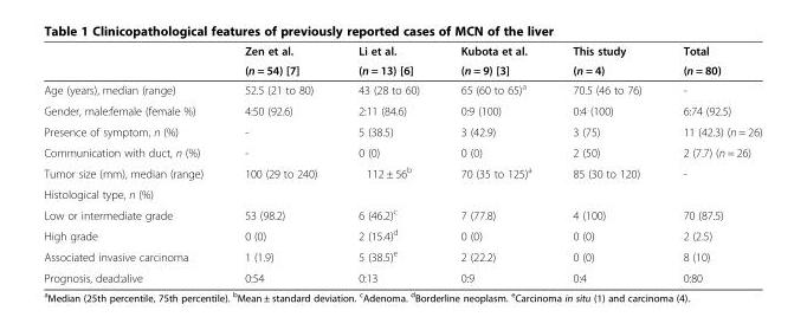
<table><thead><tr><td rowspan="2"></td><td rowspan="2">Zen et al. (n = 54) [7]</td><td rowspan="2">Li et al. (n = 13) [6]</td><td rowspan="2">Kubota et al. (n = 9) [3]</td><td rowspan="2">This study (n = 4)</td><td rowspan="2">Total (n = 80)</td></tr><tr></tr></thead><tbody><tr><td>Age (years), median (range)</td><td>52.5 (21 to 80)</td><td>43 (28 to 60)</td><td>65 (60 to 65)<sup>a</sup></td><td>70.5 (46 to 76)</td><td>-</td></tr><tr><td>Gender, male:female (female %)</td><td>4:50 (92.6)</td><td>2:11 (84.6)</td><td>0:9 (100)</td><td>0:4 (100)</td><td>6:74 (92.5)</td></tr><tr><td>Presence of symptom, n (%)</td><td>-</td><td>5 (38.5)</td><td>3 (42.9)</td><td>3 (75)</td><td>11 (42.3) (n = 26)</td></tr><tr><td>Communication with duct, n (%)</td><td>-</td><td>0 (0)</td><td>0 (0)</td><td>2 (50)</td><td>2 (7.7) (n = 26)</td></tr><tr><td>Tumor size (mm), median (range)</td><td>100 (29 to 240)</td><td>112 ± 56<sup>b</sup></td><td>70 (35 to 125)<sup>a</sup></td><td>85 (30 to 120)</td><td>-</td></tr><tr><td colspan="6">Histological type, n (%)</td></tr><tr><td>Low or intermediate grade</td><td>53 (98.2)</td><td>6 (46.2)<sup>c</sup></td><td>7 (77.8)</td><td>4 (100)</td><td>70 (87.5)</td></tr><tr><td>High grade</td><td>0 (0)</td><td>2 (15.4)<sup>d</sup></td><td>0 (0)</td><td>0 (0)</td><td>2 (2.5)</td></tr><tr><td>Associated invasive carcinoma</td><td>1 (1.9)</td><td>5 (38.5)<sup>e</sup></td><td>2 (22.2)</td><td>0 (0)</td><td>8 (10)</td></tr><tr><td>Prognosis, dead:alive</td><td>0:54</td><td>0:13</td><td>0:9</td><td>0:4</td><td>0:80</td></tr></tbody></table>